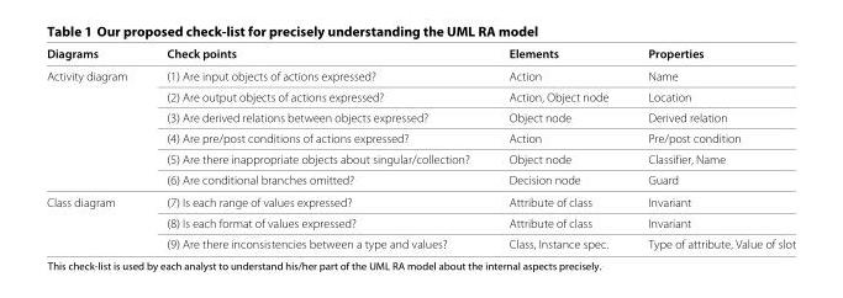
<table><thead><tr><td>Diagrams</td><td>Check points</td><td>Elements</td><td>Properties</td></tr></thead><tbody><tr><td rowspan="6">Activity diagram</td><td>(1) Are input objects of actions expressed?</td><td>Action</td><td>Name</td></tr><tr><td>(2) Are output objects of actions expressed?</td><td>Action, Object node</td><td>Location</td></tr><tr><td>(3) Are derived relations between objects expressed?</td><td>Object node</td><td>Derived relation</td></tr><tr><td>(4) Are pre/post conditions of actions expressed?</td><td>Action</td><td>Pre/post condition</td></tr><tr><td>(5) Are there inappropriate objects about singular/collection?</td><td>Object node</td><td>Classifier, Name</td></tr><tr><td>(6) Are conditional branches omitted?</td><td>Decision node</td><td>Guard</td></tr><tr><td rowspan="3">Class diagram</td><td>(7) Is each range of values expressed?</td><td>Attribute of class</td><td>Invariant</td></tr><tr><td>(8) Is each format of values expressed?</td><td>Attribute of class</td><td>Invariant</td></tr><tr><td>(9) Are there inconsistencies between a type and values?</td><td>Class, Instance spec.</td><td>Type of attribute, Value of slot</td></tr></tbody></table>